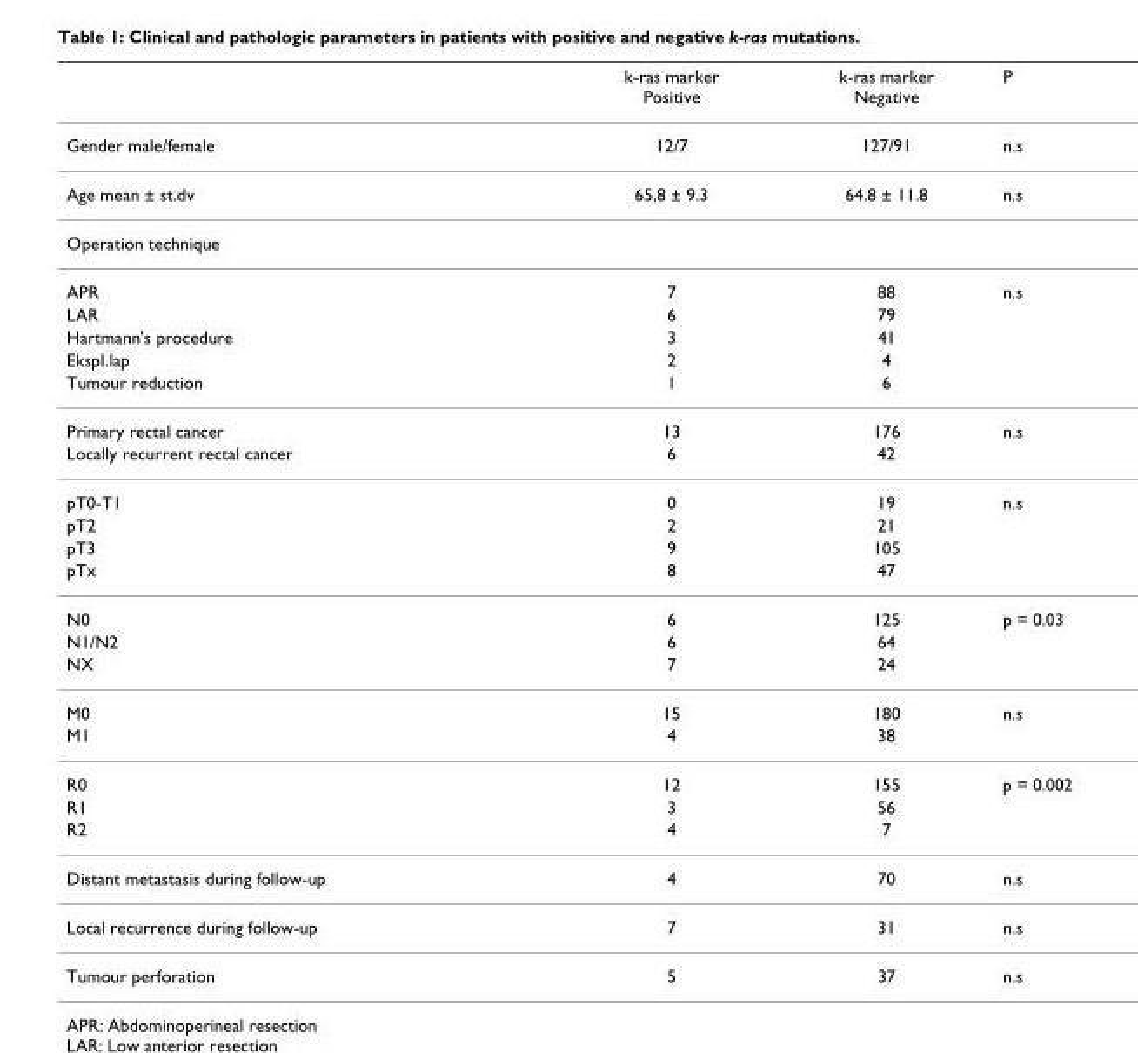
<table><thead><tr><td></td><td>k-ras marker Positive</td><td>k-ras marker Negative</td><td>P</td></tr></thead><tbody><tr><td>Gender male/female</td><td>12/7</td><td>127/91</td><td>n.s</td></tr><tr><td>Age mean ± st.dv</td><td>65,8 ± 9.3</td><td>64.8 ± 11.8</td><td>n.s</td></tr><tr><td colspan="4">Operation technique</td></tr><tr><td>APR</td><td>7</td><td>88</td><td>n.s</td></tr><tr><td>LAR</td><td>6</td><td>79</td><td></td></tr><tr><td>Hartmann&#x27;s procedure</td><td>3</td><td>41</td><td></td></tr><tr><td>EkspI.lap</td><td>2</td><td>4</td><td></td></tr><tr><td>Tumour reduction</td><td>1</td><td>6</td><td></td></tr><tr><td>Primary rectal cancer</td><td>13</td><td>176</td><td>n.s</td></tr><tr><td>Locally recurrent rectal cancer</td><td>6</td><td>42</td><td></td></tr><tr><td>pT0-T1</td><td>0</td><td>19</td><td>n.s</td></tr><tr><td>pT2</td><td>2</td><td>21</td><td></td></tr><tr><td>pT3</td><td>9</td><td>105</td><td></td></tr><tr><td>pTx</td><td>8</td><td>47</td><td></td></tr><tr><td>N0</td><td>6</td><td>125</td><td>p = 0.03</td></tr><tr><td>N1/N2</td><td>6</td><td>64</td><td></td></tr><tr><td>NX</td><td>7</td><td>24</td><td></td></tr><tr><td>M0</td><td>15</td><td>180</td><td>n.s</td></tr><tr><td>M1</td><td>4</td><td>38</td><td></td></tr><tr><td>R0</td><td>12</td><td>155</td><td>p = 0.002</td></tr><tr><td>R1</td><td>3</td><td>56</td><td></td></tr><tr><td>R2</td><td>4</td><td>7</td><td></td></tr><tr><td>Distant metastasis during follow-up</td><td>4</td><td>70</td><td>n.s</td></tr><tr><td>Local recurrence during follow-up</td><td>7</td><td>31</td><td>n.s</td></tr><tr><td>Tumour perforation</td><td>5</td><td>37</td><td>n.s</td></tr></tbody></table>